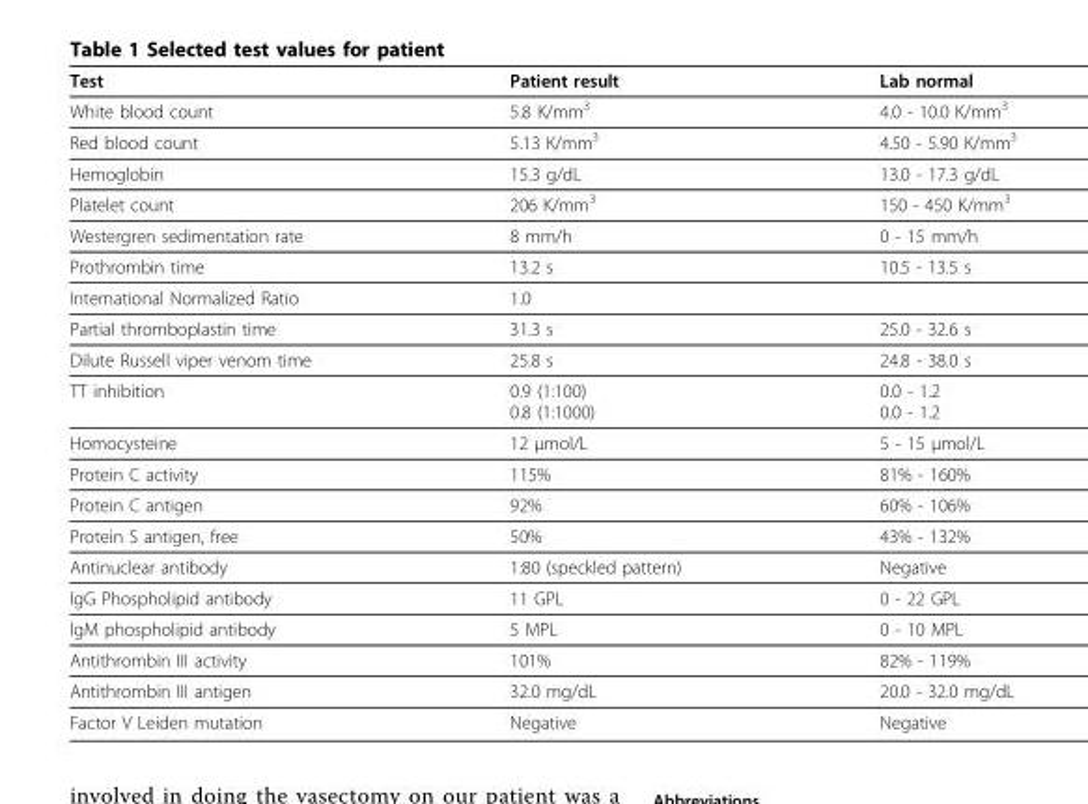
<table><thead><tr><td>Test</td><td>Patient result</td><td>Lab normal</td></tr></thead><tbody><tr><td>White blood count</td><td>5.8 K/mm<sup>3</sup></td><td>4.0 - 10.0 K/mm<sup>3</sup></td></tr><tr><td>Red blood count</td><td>5.13 K/mm<sup>3</sup></td><td>4.50 - 5.90 K/mm<sup>3</sup></td></tr><tr><td>Hemoglobin</td><td>15.3 g/dL</td><td>13.0 - 17.3 g/dL</td></tr><tr><td>Platelet count</td><td>206 K/mm<sup>3</sup></td><td>150 - 450 K/mm<sup>3</sup></td></tr><tr><td>Westergren sedimentation rate</td><td>8 mm/h</td><td>0 - 15 mm/h</td></tr><tr><td>Prothrombin time</td><td>13.2 s</td><td>10.5 - 13.5 s</td></tr><tr><td>International Normalized Ratio</td><td>1.0</td><td></td></tr><tr><td>Partial thromboplastin time</td><td>31.3 s</td><td>25.0 - 32.6 s</td></tr><tr><td>Dilute Russell viper venom time</td><td>25.8 s</td><td>24.8 - 38.0 s</td></tr><tr><td>TT inhibition</td><td>0.9 (1:100) 0.8 (1:1000)</td><td>0.0 - 1.2 0.0 - 1.2</td></tr><tr><td>Homocysteine</td><td>12 μmol/L</td><td>5 - 15 μmol/L</td></tr><tr><td>Protein C activity</td><td>115%</td><td>81% - 160%</td></tr><tr><td>Protein C antigen</td><td>92%</td><td>60% - 106%</td></tr><tr><td>Protein S antigen, free</td><td>50%</td><td>43% - 132%</td></tr><tr><td>Antinuclear antibody</td><td>1:80 (speckled pattern)</td><td>Negative</td></tr><tr><td>lgG Phospholipid antibody</td><td>11 GPL</td><td>0 - 22 GPL</td></tr><tr><td>lgM phospholipid antibody</td><td>5 MPL</td><td>0 - 10 MPL</td></tr><tr><td>Antithrombin III activity</td><td>101%</td><td>82% - 119%</td></tr><tr><td>Antithrombin III antigen</td><td>32.0 mg/dL</td><td>20.0 - 32.0 mg/dL</td></tr><tr><td>Factor V Leiden mutation</td><td>Negative</td><td>Negative</td></tr></tbody></table>